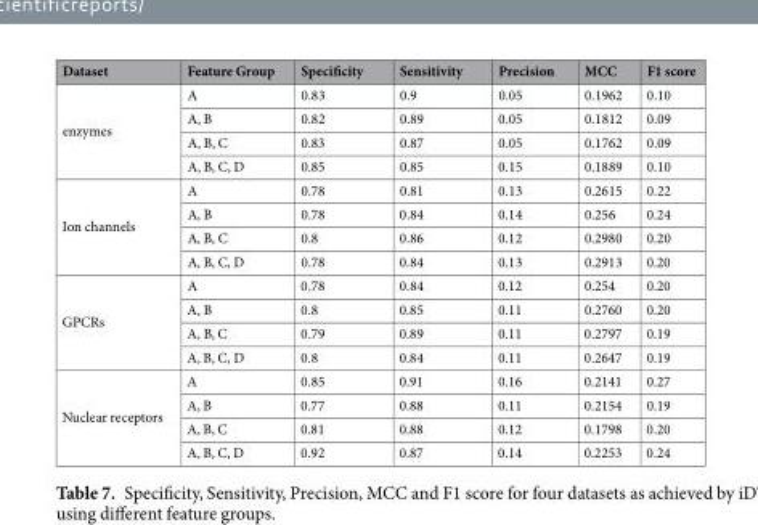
<table><thead><tr><td>Dataset</td><td>Feature Group</td><td>Specificity</td><td>Sensitivity</td><td>Precision</td><td>MCC</td><td>F1 score</td></tr></thead><tbody><tr><td rowspan="4">enzymes</td><td>A</td><td>0.83</td><td>0.9</td><td>0.05</td><td>0.1962</td><td>0.10</td></tr><tr><td>A, B</td><td>0.82</td><td>0.89</td><td>0.05</td><td>0.1812</td><td>0.09</td></tr><tr><td>A, B, C</td><td>0.83</td><td>0.87</td><td>0.05</td><td>0.1762</td><td>0.09</td></tr><tr><td>A, B, C, D</td><td>0.85</td><td>0.85</td><td>0.15</td><td>0.1889</td><td>0.10</td></tr><tr><td rowspan="4">Ion channels</td><td>A</td><td>0.78</td><td>0.81</td><td>0.13</td><td>0.2615</td><td>0.22</td></tr><tr><td>A, B</td><td>0.78</td><td>0.84</td><td>0.14</td><td>0.256</td><td>0.24</td></tr><tr><td>A, B, C</td><td>0.8</td><td>0.86</td><td>0.12</td><td>0.2980</td><td>0.20</td></tr><tr><td>A, B, C, D</td><td>0.78</td><td>0.84</td><td>0.13</td><td>0.2913</td><td>0.20</td></tr><tr><td rowspan="4">GPCRs</td><td>A</td><td>0.78</td><td>0.84</td><td>0.12</td><td>0.254</td><td>0.20</td></tr><tr><td>A, B</td><td>0.8</td><td>0.85</td><td>0.11</td><td>0.2760</td><td>0.20</td></tr><tr><td>A, B, C</td><td>0.79</td><td>0.89</td><td>0.11</td><td>0.2797</td><td>0.19</td></tr><tr><td>A, B, C, D</td><td>0.8</td><td>0.84</td><td>0.11</td><td>0.2647</td><td>0.19</td></tr><tr><td rowspan="4">Nuclear receptors</td><td>A</td><td>0.85</td><td>0.91</td><td>0.16</td><td>0.2141</td><td>0.27</td></tr><tr><td>A, B</td><td>0.77</td><td>0.88</td><td>0.11</td><td>0.2154</td><td>0.19</td></tr><tr><td>A, B, C</td><td>0.81</td><td>0.88</td><td>0.12</td><td>0.1798</td><td>0.20</td></tr><tr><td>A, B, C, D</td><td>0.92</td><td>0.87</td><td>0.14</td><td>0.2253</td><td>0.24</td></tr></tbody></table>